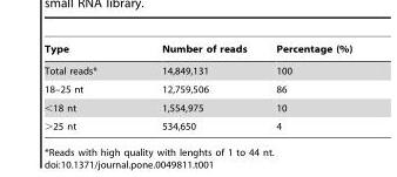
<table><thead><tr><td>Type</td><td>Number of reads</td><td>Percentage (%)</td></tr></thead><tbody><tr><td>Total reads*</td><td>14,849,131</td><td>100</td></tr><tr><td>18–25 nt</td><td>12,759,506</td><td>86</td></tr><tr><td>&lt;18 nt</td><td>1,554,975</td><td>10</td></tr><tr><td>&gt;25 nt</td><td>534,650</td><td>4</td></tr></tbody></table>